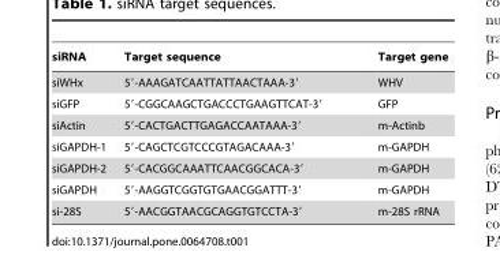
<table><thead><tr><td>siRNA</td><td>Target sequence</td><td>Target gene</td></tr></thead><tbody><tr><td>siWHx</td><td>5′-AAAGATCAATTATTAACTAAA-3′</td><td>WHV</td></tr><tr><td>siGFP</td><td>5′-CGGCAAGCTGACCCTGAAGTTCAT-3′</td><td>GFP</td></tr><tr><td>siActin</td><td>5′-CACTGACTTGAGACCAATAAA-3′</td><td>m-Actinb</td></tr><tr><td>siGAPDH-1</td><td>5′-CAGCTCGTCCCGTAGACAAA-3′</td><td>m-GAPDH</td></tr><tr><td>siGAPDH-2</td><td>5′-CACGGCAAATTCAACGGCACA-3′</td><td>m-GAPDH</td></tr><tr><td>siGAPDH</td><td>5′-AAGGTCGGTGTGAACGGATTT-3′</td><td>m-GAPDH</td></tr><tr><td>si-28S</td><td>5′-AACGGTAACGCAGGTGTCCTA-3′</td><td>m-28S rRNA</td></tr></tbody></table>